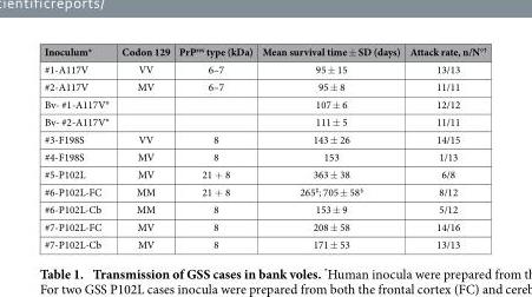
<table><thead><tr><td>Inoculum*</td><td>Codon 129</td><td>PrP<sup>res</sup> type (kDa)</td><td>Mean survival time ± SD (days)</td><td>Attack rate, n/N°<sup>†</sup></td></tr></thead><tbody><tr><td>#1-A117V</td><td>VV</td><td>6–7</td><td>95 ± 15</td><td>13/13</td></tr><tr><td>#2-A117V</td><td>MV</td><td>6–7</td><td>95 ± 8</td><td>11/11</td></tr><tr><td>Bv- #1-A117V°</td><td></td><td></td><td>107 ± 6</td><td>12/12</td></tr><tr><td>Bv- #2-A117V°</td><td></td><td></td><td>111 ± 5</td><td>11/11</td></tr><tr><td>#3-F198S</td><td>VV</td><td>8</td><td>143 ± 26</td><td>14/15</td></tr><tr><td>#4-F198S</td><td>MV</td><td>8</td><td>153</td><td>1/13</td></tr><tr><td>#5-P102L</td><td>MV</td><td>21 + 8</td><td>363 ± 38</td><td>6/8</td></tr><tr><td>#6-P102L-FC</td><td>MM</td><td>21 + 8</td><td>265‡; 705 ± 58§</td><td>8/12</td></tr><tr><td>#6-P102L-Cb</td><td>MM</td><td>8</td><td>153 ± 9</td><td>5/12</td></tr><tr><td>#7-P102L-FC</td><td>MV</td><td>8</td><td>208 ± 58</td><td>14/16</td></tr><tr><td>#7-P102L-Cb</td><td>MV</td><td>8</td><td>171 ± 53</td><td>13/13</td></tr></tbody></table>